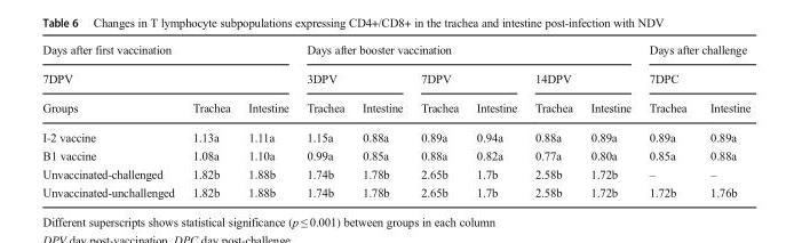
<table><thead><tr><td rowspan="2" colspan="3">Days after first vaccination 7DPV</td><td colspan="6">Days after booster vaccination</td><td rowspan="2" colspan="2">Days after challenge 7DPC</td></tr><tr><td colspan="2">3DPV</td><td colspan="2">7DPV</td><td colspan="2">14DPV</td></tr><tr><td>Groups</td><td>Trachea</td><td>Intestine</td><td>Trachea</td><td>Intestine</td><td>Trachea</td><td>Intestine</td><td>Trachea</td><td>Intestine</td><td>Trachea</td><td>Intestine</td></tr></thead><tbody><tr><td>I-2 vaccine</td><td>1.13a</td><td>1.11a</td><td>1.15a</td><td>0.88a</td><td>0.89a</td><td>0.94a</td><td>0.88a</td><td>0.89a</td><td>0.89a</td><td>0.89a</td></tr><tr><td>B1 vaccine</td><td>1.08a</td><td>1.10a</td><td>0.99a</td><td>0.85a</td><td>0.88a</td><td>0.82a</td><td>0.77a</td><td>0.80a</td><td>0.85a</td><td>0.88a</td></tr><tr><td>Unvaccinated-challenged</td><td>1.82b</td><td>1.88b</td><td>1.74b</td><td>1.78b</td><td>2.65b</td><td>1.7b</td><td>2.58b</td><td>1.72b</td><td>–</td><td>–</td></tr><tr><td>Unvaccinated-unchallenged</td><td>1.82b</td><td>1.88b</td><td>1.74b</td><td>1.78b</td><td>2.65b</td><td>1.7b</td><td>2.58b</td><td>1.72b</td><td>1.72b</td><td>1.76b</td></tr></tbody></table>